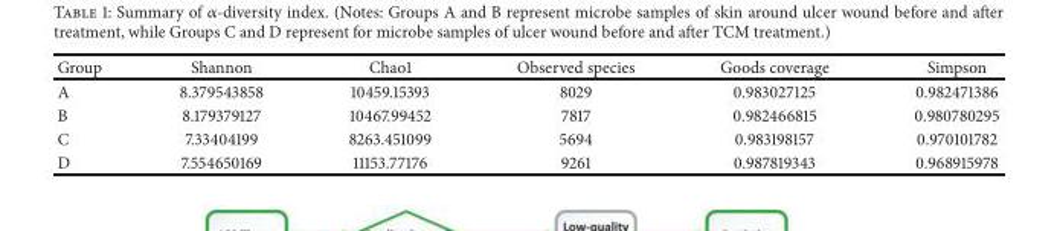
<table><thead><tr><td>Group</td><td>Shannon</td><td>Chao1</td><td>Observed species</td><td>Goods coverage</td><td>Simpson</td></tr></thead><tbody><tr><td>A</td><td>8.379543858</td><td>10459.15393</td><td>8029</td><td>0.983027125</td><td>0.982471386</td></tr><tr><td>B</td><td>8.179379127</td><td>10467.99452</td><td>7817</td><td>0.982466815</td><td>0.980780295</td></tr><tr><td>C</td><td>7.33404199</td><td>8263.451099</td><td>5694</td><td>0.983198157</td><td>0.970101782</td></tr><tr><td>D</td><td>7.554650169</td><td>11153.77176</td><td>9261</td><td>0.987819343</td><td>0.968915978</td></tr></tbody></table>